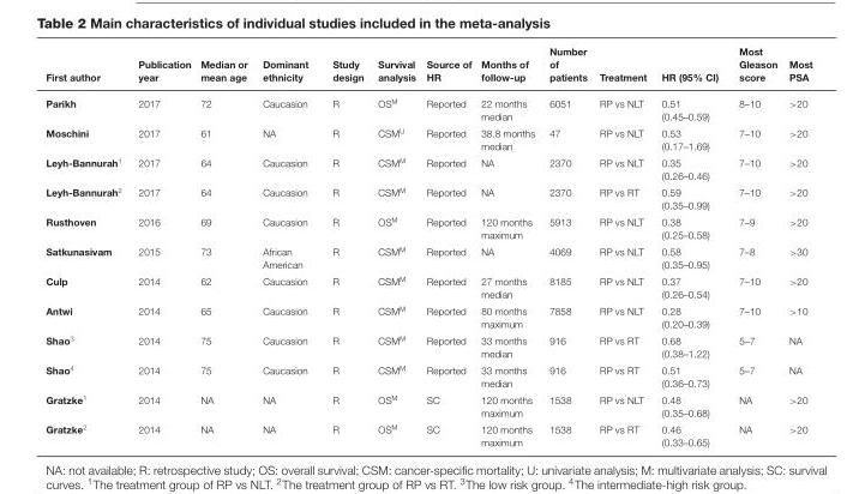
<table><thead><tr><td>First author</td><td>Publication year</td><td>Median or mean age</td><td>Dominant ethnicity</td><td>Study design</td><td>Survival analysis</td><td>Source of HR</td><td>Months of follow-up</td><td>Number of patients</td><td>Treatment</td><td>HR (95% CI)</td><td>Most Gleason score</td><td>Most PSA</td></tr></thead><tbody><tr><td>Parikh</td><td>2017</td><td>72</td><td>Caucasion</td><td>R</td><td>OS<sup>M</sup></td><td>Reported</td><td>22 months median</td><td>6051</td><td>RP vs NLT</td><td>0.51 (0.45–0.59)</td><td>8–10</td><td>&gt;20</td></tr><tr><td>Moschini</td><td>2017</td><td>61</td><td>NA</td><td>R</td><td>CSM<sup>U</sup></td><td>Reported</td><td>38.8 months median</td><td>47</td><td>RP vs NLT</td><td>0.53 (0.17–1.69)</td><td>7–10</td><td>&gt;20</td></tr><tr><td>Leyh-Bannurah<sup>1</sup></td><td>2017</td><td>64</td><td>Caucasion</td><td>R</td><td>CSM<sup>M</sup></td><td>Reported</td><td>NA</td><td>2370</td><td>RP vs NLT</td><td>0.35 (0.26–0.46)</td><td>7–10</td><td>&gt;20</td></tr><tr><td>Leyh-Bannurah<sup>2</sup></td><td>2017</td><td>64</td><td>Caucasion</td><td>R</td><td>CSM<sup>M</sup></td><td>Reported</td><td>NA</td><td>2370</td><td>RP vs RT</td><td>0.59 (0.35–0.99)</td><td>7–10</td><td>&gt;20</td></tr><tr><td>Rusthoven</td><td>2016</td><td>69</td><td>Caucasion</td><td>R</td><td>OS<sup>M</sup></td><td>Reported</td><td>120 months maximum</td><td>5913</td><td>RP vs NLT</td><td>0.38 (0.25–0.58)</td><td>7–9</td><td>&gt;20</td></tr><tr><td>Satkunasivam</td><td>2015</td><td>73</td><td>African American</td><td>R</td><td>CSM<sup>M</sup></td><td>Reported</td><td>NA</td><td>4069</td><td>RP vs NLT</td><td>0.58 (0.35–0.95)</td><td>7–8</td><td>&gt;30</td></tr><tr><td>Culp</td><td>2014</td><td>62</td><td>Caucasion</td><td>R</td><td>CSM<sup>M</sup></td><td>Reported</td><td>27 months median</td><td>8185</td><td>RP vs NLT</td><td>0.37 (0.26–0.54)</td><td>7–10</td><td>&gt;20</td></tr><tr><td>Antwi</td><td>2014</td><td>65</td><td>Caucasion</td><td>R</td><td>CSM<sup>M</sup></td><td>Reported</td><td>80 months maximum</td><td>7858</td><td>RP vs NLT</td><td>0.28 (0.20–0.39)</td><td>7–10</td><td>&gt;10</td></tr><tr><td>Shao<sup>3</sup></td><td>2014</td><td>75</td><td>Caucasion</td><td>R</td><td>CSM<sup>M</sup></td><td>Reported</td><td>33 months median</td><td>916</td><td>RP vs RT</td><td>0.68 (0.38–1.22)</td><td>5–7</td><td>NA</td></tr><tr><td>Shao<sup>4</sup></td><td>2014</td><td>75</td><td>Caucasion</td><td>R</td><td>CSM<sup>M</sup></td><td>Reported</td><td>33 months median</td><td>916</td><td>RP vs RT</td><td>0.51 (0.36–0.73)</td><td>5–7</td><td>NA</td></tr><tr><td>Gratzke<sup>1</sup></td><td>2014</td><td>NA</td><td>NA</td><td>R</td><td>OS<sup>M</sup></td><td>SC</td><td>120 months maximum</td><td>1538</td><td>RP vs NLT</td><td>0.48 (0.35–0.68)</td><td>NA</td><td>&gt;20</td></tr><tr><td>Gratzke<sup>2</sup></td><td>2014</td><td>NA</td><td>NA</td><td>R</td><td>OS<sup>M</sup></td><td>SC</td><td>120 months maximum</td><td>1538</td><td>RP vs RT</td><td>0.46 (0.33–0.65)</td><td>NA</td><td>&gt;20</td></tr></tbody></table>